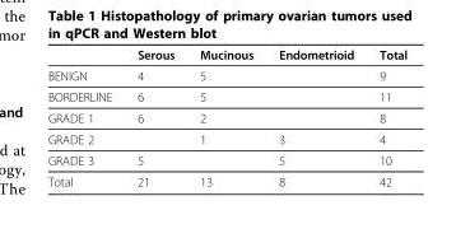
<table><thead><tr><td></td><td>Serous</td><td>Mucinous</td><td>Endometrioid</td><td>Total</td></tr></thead><tbody><tr><td>BENIGN</td><td>4</td><td>5</td><td></td><td>9</td></tr><tr><td>BORDERLINE</td><td>6</td><td>5</td><td></td><td>11</td></tr><tr><td>GRADE 1</td><td>6</td><td>2</td><td></td><td>8</td></tr><tr><td>GRADE 2</td><td></td><td>1</td><td>3</td><td>4</td></tr><tr><td>GRADE 3</td><td>5</td><td></td><td>5</td><td>10</td></tr><tr><td>Total</td><td>21</td><td>13</td><td>8</td><td>42</td></tr></tbody></table>